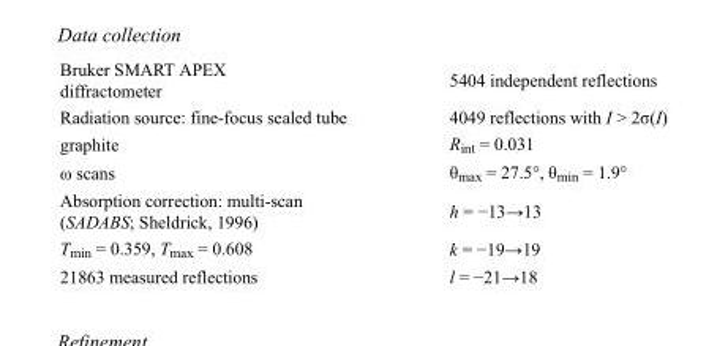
<table><tbody><tr><td>Bruker SMART APEX diffractometer</td><td>5404 independent reflections</td></tr><tr><td>Radiation source: fine-focus sealed tube</td><td>4049 reflections with I &gt; 2σ(I)</td></tr><tr><td>graphite</td><td>R<sub>int</sub> = 0.031</td></tr><tr><td>ω scans</td><td>θ<sub>max</sub> = 27.5°, θ<sub>min</sub> = 1.9°</td></tr><tr><td>Absorption correction: multi-scan (SADABS; Sheldrick, 1996)</td><td>h = −13→13</td></tr><tr><td>T<sub>min</sub> = 0.359, T<sub>max</sub> = 0.608</td><td>k = −19→19</td></tr><tr><td>21863 measured reflections</td><td>l = −21→18</td></tr></tbody></table>